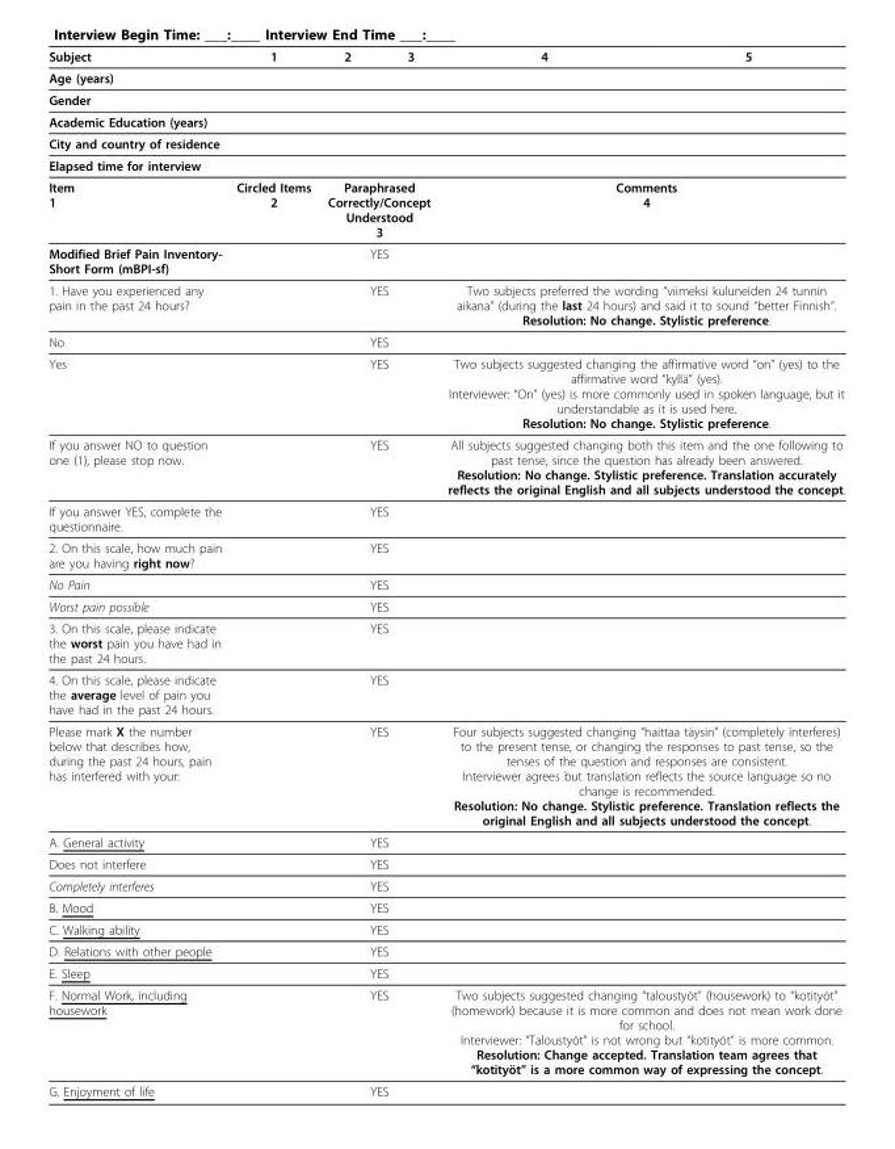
<table><thead><tr><td>Subject</td><td>1</td><td>2</td><td>3</td><td>4</td><td>5</td></tr></thead><tbody><tr><td colspan="6">Age (years)</td></tr><tr><td colspan="6">Gender</td></tr><tr><td colspan="6">Academic Education (years)</td></tr><tr><td colspan="6">City and country of residence</td></tr><tr><td colspan="6">Elapsed time for interview</td></tr><tr><td>Item 1</td><td>Circled Items 2</td><td colspan="2">Paraphrased Correctly/Concept Understood 3</td><td colspan="2">Comments 4</td></tr><tr><td>Modified Brief Pain Inventory- Short Form (mBPI-sf)</td><td></td><td colspan="2">YES</td><td></td><td></td></tr><tr><td>1. Have you experienced any pain in the past 24 hours?</td><td></td><td colspan="2">YES</td><td colspan="2">Two subjects preferred the wording “viimeksi kuluneiden 24 tunnin aikana” (during the last 24 hours) and said it to sound “better Finnish”. Resolution: No change. Stylistic preference.</td></tr><tr><td>No</td><td></td><td colspan="2">YES</td><td></td><td></td></tr><tr><td>Yes</td><td></td><td colspan="2">YES</td><td colspan="2">Two subjects suggested changing the affirmative word “on” (yes) to the affirmative word “kyllä” (yes). Interviewer: “On” (yes) is more commonly used in spoken language, but it understandable as it is used here. Resolution: No change. Stylistic preference.</td></tr><tr><td>If you answer NO to question one (1), please stop now.</td><td></td><td colspan="2">YES</td><td colspan="2">All subjects suggested changing both this item and the one following to past tense, since the question has already been answered. Resolution: No change. Stylistic preference. Translation accurately reflects the original English and all subjects understood the concept.</td></tr><tr><td>If you answer YES, complete the questionnaire.</td><td></td><td colspan="2">YES</td><td></td><td></td></tr><tr><td>2. On this scale, how much pain are you having right now?</td><td></td><td colspan="2">YES</td><td></td><td></td></tr><tr><td>No Pain</td><td></td><td colspan="2">YES</td><td></td><td></td></tr><tr><td>Worst pain possible</td><td></td><td colspan="2">YES</td><td></td><td></td></tr><tr><td>3. On this scale, please indicate the worst pain you have had in the past 24 hours.</td><td></td><td colspan="2">YES</td><td></td><td></td></tr><tr><td>4. On this scale, please indicate the average level of pain you have had in the past 24 hours.</td><td></td><td colspan="2">YES</td><td></td><td></td></tr><tr><td>Please mark X the number below that describes how, during the past 24 hours, pain has interfered with your:</td><td></td><td colspan="2">YES</td><td colspan="2">Four subjects suggested changing “haittaa täysin” (completely interferes) to the present tense, or changing the responses to past tense, so the tenses of the question and responses are consistent. Interviewer agrees but translation reflects the source language so no change is recommended. Resolution: No change. Stylistic preference. Translation reflects the original English and all subjects understood the concept.</td></tr><tr><td>A. General activity</td><td></td><td colspan="2">YES</td><td></td><td></td></tr><tr><td>Does not interfere</td><td></td><td colspan="2">YES</td><td></td><td></td></tr><tr><td>Completely interferes</td><td></td><td colspan="2">YES</td><td></td><td></td></tr><tr><td>B. Mood</td><td></td><td colspan="2">YES</td><td></td><td></td></tr><tr><td>C. Walking ability</td><td></td><td colspan="2">YES</td><td></td><td></td></tr><tr><td>D. Relations with other people</td><td></td><td colspan="2">YES</td><td></td><td></td></tr><tr><td>E. Sleep</td><td></td><td colspan="2">YES</td><td></td><td></td></tr><tr><td>F. Normal Work, including housework</td><td></td><td colspan="2">YES</td><td colspan="2">Two subjects suggested changing “taloustyöt” (housework) to “kotityöt” (homework) because it is more common and does not mean work done for school. Interviewer: “Taloustyöt” is not wrong but “kotityöt” is more common. Resolution: Change accepted. Translation team agrees that “kotityöt” is a more common way of expressing the concept.</td></tr><tr><td>G. Enjoyment of life</td><td></td><td colspan="2">YES</td><td></td><td></td></tr></tbody></table>